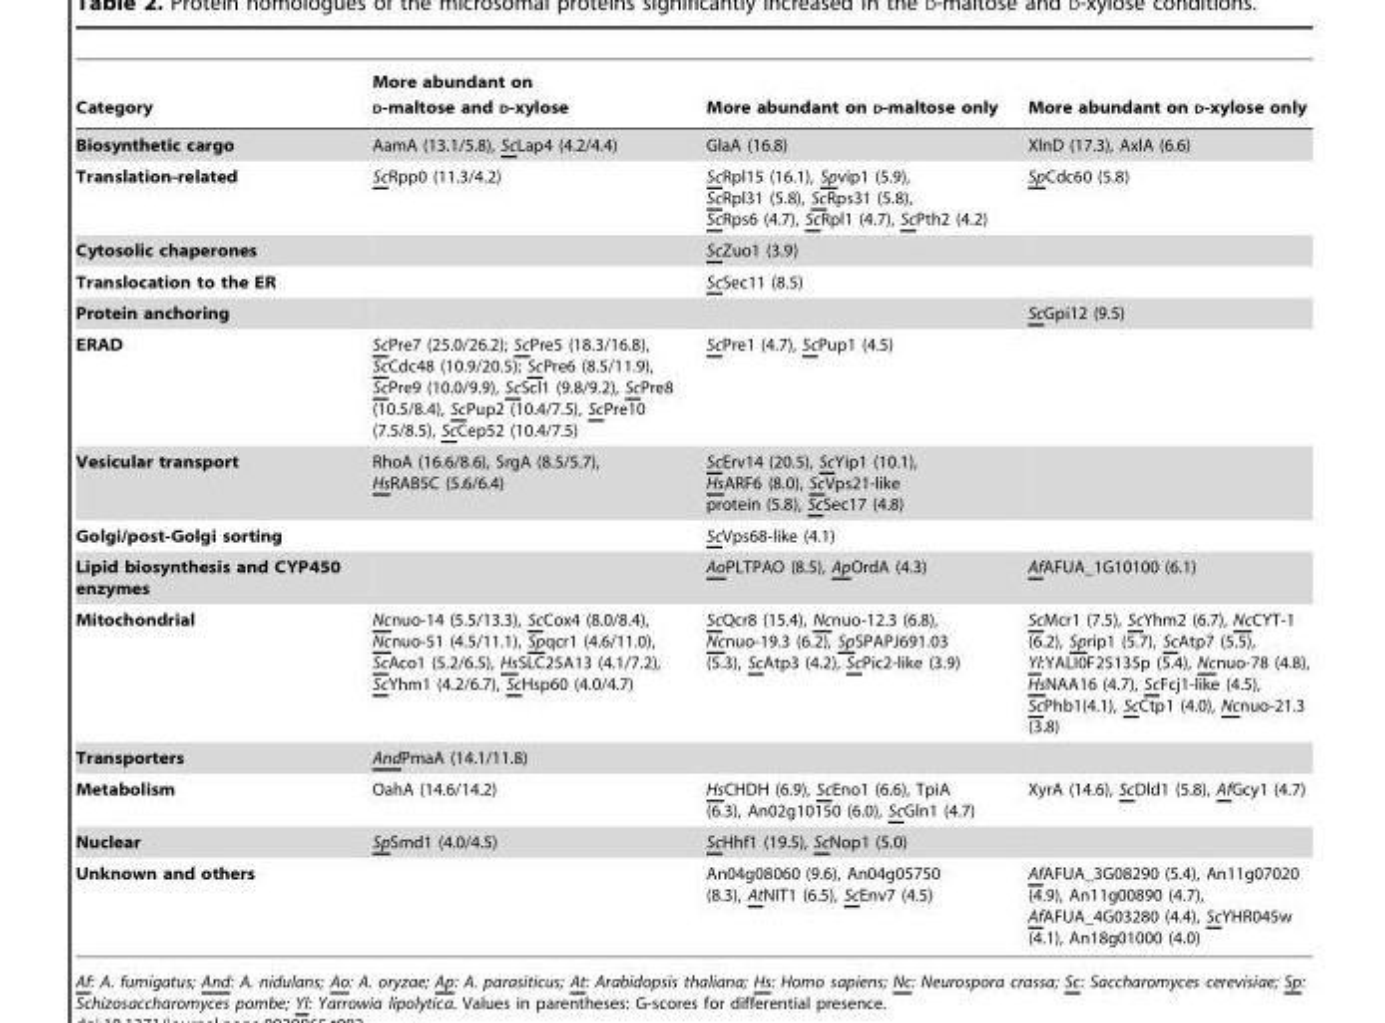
<table><thead><tr><td>Category</td><td>More abundant on D-maltose and D-xylose</td><td>More abundant on D-maltose only</td><td>More abundant on D-xylose only</td></tr></thead><tbody><tr><td>Biosynthetic cargo</td><td>AamA (13.1/5.8), ScLap4 (4.2/4.4)</td><td>GlaA (16.8)</td><td>XlnD (17.3), AxlA (6.6)</td></tr><tr><td>Translation-related</td><td>ScRpp0 (11.3/4.2)</td><td>ScRpl15 (16.1), Spvip1 (5.9), ScRpl31 (5.8), ScRps31 (5.8), ScRps6 (4.7), ScRpl1 (4.7), ScPth2 (4.2)</td><td>SpCdc60 (5.8)</td></tr><tr><td>Cytosolic chaperones</td><td></td><td>ScZuo1 (3.9)</td><td></td></tr><tr><td>Translocation to the ER</td><td></td><td>ScSec11 (8.5)</td><td></td></tr><tr><td>Protein anchoring</td><td></td><td></td><td>ScGpi12 (9.5)</td></tr><tr><td>ERAD</td><td>ScPre7 (25.0/26.2); ScPre5 (18.3/16.8), ScCdc48 (10.9/20.5); ScPre6 (8.5/11.9), ScPre9 (10.0/9.9), ScScl1 (9.8/9.2), ScPre8 (10.5/8.4), ScPup2 (10.4/7.5), ScPre10 (7.5/8.5), ScCep52 (10.4/7.5)</td><td>ScPre1 (4.7), ScPup1 (4.5)</td><td></td></tr><tr><td>Vesicular transport</td><td>RhoA (16.6/8.6), SrgA (8.5/5.7), HsRAB5C (5.6/6.4)</td><td>ScErv14 (20.5), ScYip1 (10.1), HsARF6 (8.0), ScVps21-like protein (5.8), ScSec17 (4.8)</td><td></td></tr><tr><td>Golgi/post-Golgi sorting</td><td></td><td>ScVps68-like (4.1)</td><td></td></tr><tr><td>Lipid biosynthesis and CYP450 enzymes</td><td></td><td>AoPLTPAO (8.5), ApOrdA (4.3)</td><td>AfAFUA_1G10100 (6.1)</td></tr><tr><td>Mitochondrial</td><td>Ncnuo-14 (5.5/13.3), ScCox4 (8.0/8.4), Ncnuo-51 (4.5/11.1), Spqcr1 (4.6/11.0), ScAco1 (5.2/6.5), HsSLC25A13 (4.1/7.2), ScYhm1 (4.2/6.7), ScHsp60 (4.0/4.7)</td><td>ScQcr8 (15.4), Ncnuo-12.3 (6.8), Ncnuo-19.3 (6.2), SpSPAPJ691.03 (5.3), ScAtp3 (4.2), ScPic2-like (3.9)</td><td>ScMcr1 (7.5), ScYhm2 (6.7), NcCYT-1 (6.2), Sprip1 (5.7), ScAtp7 (5.5), Yl:YALI0F25135p (5.4), Ncnuo-78 (4.8), HsNAA16 (4.7), ScFcj1-like (4.5), ScPhb1(4.1), ScCtp1 (4.0), Ncnuo-21.3 (3.8)</td></tr><tr><td>Transporters</td><td>AndPmaA (14.1/11.8)</td><td></td><td></td></tr><tr><td>Metabolism</td><td>OahA (14.6/14.2)</td><td>HsCHDH (6.9), ScEno1 (6.6), TpiA (6.3), An02g10150 (6.0), ScGln1 (4.7)</td><td>XyrA (14.6), ScDld1 (5.8), AfGcy1 (4.7)</td></tr><tr><td>Nuclear</td><td>SpSmd1 (4.0/4.5)</td><td>ScHhf1 (19.5), ScNop1 (5.0)</td><td></td></tr><tr><td>Unknown and others</td><td></td><td>An04g08060 (9.6), An04g05750 (8.3), AtNIT1 (6.5), ScEnv7 (4.5)</td><td>AfAFUA_3G08290 (5.4), An11g07020 (4.9), An11g00890 (4.7), AfAFUA_4G03280 (4.4), ScYHR045w (4.1), An18g01000 (4.0)</td></tr></tbody></table>